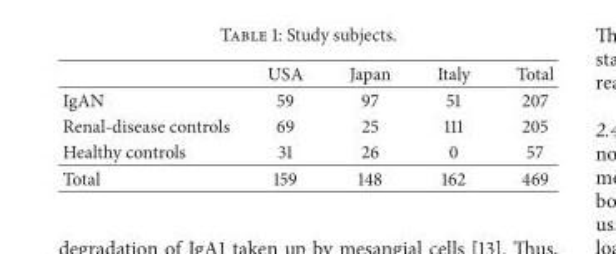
<table><thead><tr><td></td><td>USA</td><td>Japan</td><td>Italy</td><td>Total</td></tr></thead><tbody><tr><td>IgAN</td><td>59</td><td>97</td><td>51</td><td>207</td></tr><tr><td>Renal-disease controls</td><td>69</td><td>25</td><td>111</td><td>205</td></tr><tr><td>Healthy controls</td><td>31</td><td>26</td><td>0</td><td>57</td></tr><tr><td>Total</td><td>159</td><td>148</td><td>162</td><td>469</td></tr></tbody></table>